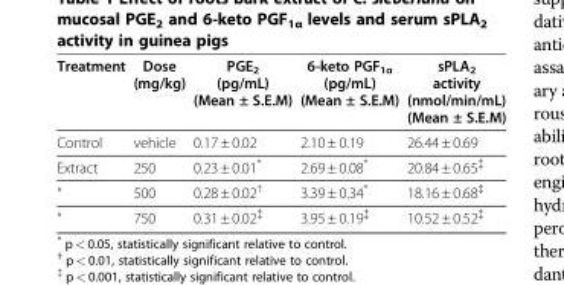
<table><thead><tr><td>Treatment</td><td>Dose (mg/kg)</td><td>PGE<sub>2</sub> (pg/mL) (Mean ± S.E.M)</td><td>6-keto PGF<sub>1α</sub> (pg/mL) (Mean ± S.E.M)</td><td>sPLA<sub>2</sub> activity (nmol/min/mL) (Mean ± S.E.M)</td></tr></thead><tbody><tr><td>Control</td><td>vehicle</td><td>0.17 ± 0.02</td><td>2.10 ± 0.19</td><td>26.44 ± 0.69</td></tr><tr><td>Extract</td><td>250</td><td>0.23 ± 0.01*</td><td>2.69 ± 0.08*</td><td>20.84 ± 0.65<sup>‡</sup></td></tr><tr><td>“</td><td>500</td><td>0.28 ± 0.02<sup>†</sup></td><td>3.39 ± 0.34*</td><td>18.16 ± 0.68<sup>‡</sup></td></tr><tr><td>“</td><td>750</td><td>0.31 ± 0.02<sup>‡</sup></td><td>3.95 ± 0.19<sup>‡</sup></td><td>10.52 ± 0.52<sup>‡</sup></td></tr></tbody></table>